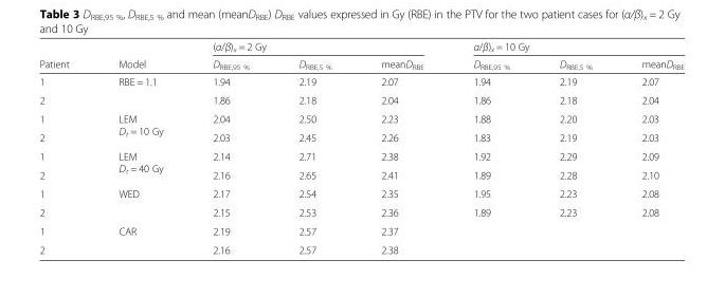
<table><thead><tr><td rowspan="2">Patient</td><td rowspan="2">Model</td><td colspan="3">(α/β)<sub>x</sub> = 2 Gy</td><td colspan="3">α/β)<sub>x</sub> = 10 Gy</td></tr><tr><td>D<sub>RBE,95 %</sub></td><td>D<sub>RBE,5 %</sub></td><td>meanD<sub>RBE</sub></td><td>D<sub>RBE,95 %</sub></td><td>D<sub>RBE,5 %</sub></td><td>meanD<sub>RBE</sub></td></tr></thead><tbody><tr><td>1</td><td rowspan="2">RBE = 1.1</td><td>1.94</td><td>2.19</td><td>2.07</td><td>1.94</td><td>2.19</td><td>2.07</td></tr><tr><td>2</td><td>1.86</td><td>2.18</td><td>2.04</td><td>1.86</td><td>2.18</td><td>2.04</td></tr><tr><td>1</td><td rowspan="2">LEM D<sub>t</sub> = 10 Gy</td><td>2.04</td><td>2.50</td><td>2.23</td><td>1.88</td><td>2.20</td><td>2.03</td></tr><tr><td>2</td><td>2.03</td><td>2.45</td><td>2.26</td><td>1.83</td><td>2.19</td><td>2.03</td></tr><tr><td>1</td><td rowspan="2">LEM D<sub>t</sub> = 40 Gy</td><td>2.14</td><td>2.71</td><td>2.38</td><td>1.92</td><td>2.29</td><td>2.09</td></tr><tr><td>2</td><td>2.16</td><td>2.65</td><td>2.41</td><td>1.89</td><td>2.28</td><td>2.10</td></tr><tr><td>1</td><td rowspan="2">WED</td><td>2.17</td><td>2.54</td><td>2.35</td><td>1.95</td><td>2.23</td><td>2.08</td></tr><tr><td>2</td><td>2.15</td><td>2.53</td><td>2.36</td><td>1.89</td><td>2.23</td><td>2.08</td></tr><tr><td>1</td><td rowspan="2">CAR</td><td>2.19</td><td>2.57</td><td>2.37</td><td rowspan="2"></td><td rowspan="2"></td><td rowspan="2"></td></tr><tr><td>2</td><td>2.16</td><td>2.57</td><td>2.38</td></tr></tbody></table>